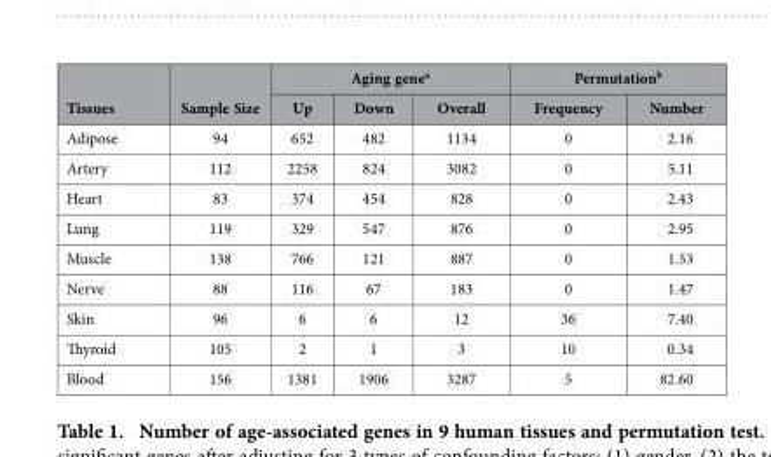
<table><thead><tr><td rowspan="2">Tissues</td><td rowspan="2">Sample Size</td><td colspan="3">Aging gene<sup>a</sup></td><td colspan="2">Permutation<sup>b</sup></td></tr><tr><td>Up</td><td>Down</td><td>Overall</td><td>Frequency</td><td>Number</td></tr></thead><tbody><tr><td>Adipose</td><td>94</td><td>652</td><td>482</td><td>1134</td><td>0</td><td>2.16</td></tr><tr><td>Artery</td><td>112</td><td>2258</td><td>824</td><td>3082</td><td>0</td><td>5.11</td></tr><tr><td>Heart</td><td>83</td><td>374</td><td>454</td><td>828</td><td>0</td><td>2.43</td></tr><tr><td>Lung</td><td>119</td><td>329</td><td>547</td><td>876</td><td>0</td><td>2.95</td></tr><tr><td>Muscle</td><td>138</td><td>766</td><td>121</td><td>887</td><td>0</td><td>1.53</td></tr><tr><td>Nerve</td><td>88</td><td>116</td><td>67</td><td>183</td><td>0</td><td>1.47</td></tr><tr><td>Skin</td><td>96</td><td>6</td><td>6</td><td>12</td><td>36</td><td>7.40</td></tr><tr><td>Thyroid</td><td>105</td><td>2</td><td>1</td><td>3</td><td>10</td><td>0.34</td></tr><tr><td>Blood</td><td>156</td><td>1381</td><td>1906</td><td>3287</td><td>5</td><td>82.60</td></tr></tbody></table>